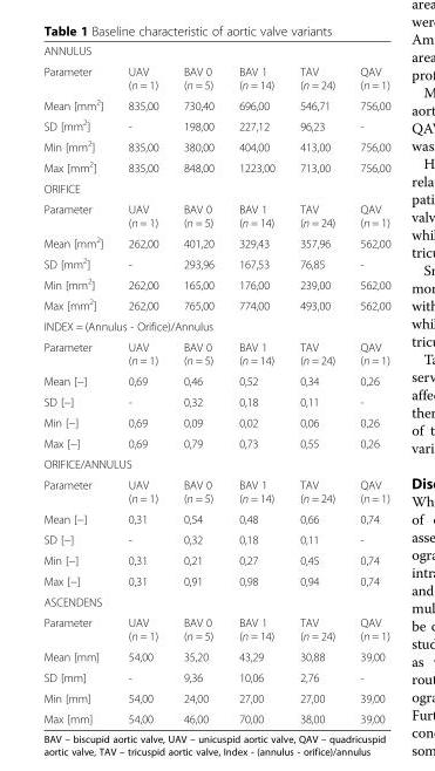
<table><tbody><tr><td colspan="6">ANNULUS</td></tr><tr><td>Parameter</td><td>UAV (n = 1)</td><td>BAV 0 (n = 5)</td><td>BAV 1 (n = 14)</td><td>TAV (n = 24)</td><td>QAV (n = 1)</td></tr><tr><td>Mean [mm<sup>2</sup>]</td><td>835,00</td><td>730,40</td><td>696,00</td><td>546,71</td><td>756,00</td></tr><tr><td>SD [mm<sup>2</sup>]</td><td>-</td><td>198,00</td><td>227,12</td><td>96,23</td><td>-</td></tr><tr><td>Min [mm<sup>2</sup>]</td><td>835,00</td><td>380,00</td><td>404,00</td><td>413,00</td><td>756,00</td></tr><tr><td>Max [mm<sup>2</sup>]</td><td>835,00</td><td>848,00</td><td>1223,00</td><td>713,00</td><td>756,00</td></tr><tr><td colspan="6">ORIFICE</td></tr><tr><td>Parameter</td><td>UAV (n = 1)</td><td>BAV 0 (n = 5)</td><td>BAV 1 (n = 14)</td><td>TAV (n = 24)</td><td>QAV (n = 1)</td></tr><tr><td>Mean [mm<sup>2</sup>]</td><td>262,00</td><td>401,20</td><td>329,43</td><td>357,96</td><td>562,00</td></tr><tr><td>SD [mm<sup>2</sup>]</td><td>-</td><td>293,96</td><td>167,53</td><td>76,85</td><td>-</td></tr><tr><td>Min [mm<sup>2</sup>]</td><td>262,00</td><td>165,00</td><td>176,00</td><td>239,00</td><td>562,00</td></tr><tr><td>Max [mm<sup>2</sup>]</td><td>262,00</td><td>765,00</td><td>774,00</td><td>493,00</td><td>562,00</td></tr><tr><td colspan="6">INDEX = (Annulus - Orifice)/Annulus</td></tr><tr><td>Parameter</td><td>UAV (n = 1)</td><td>BAV 0 (n = 5)</td><td>BAV 1 (n = 14)</td><td>TAV (n = 24)</td><td>QAV (n = 1)</td></tr><tr><td>Mean [−]</td><td>0,69</td><td>0,46</td><td>0,52</td><td>0,34</td><td>0,26</td></tr><tr><td>SD [−]</td><td>-</td><td>0,32</td><td>0,18</td><td>0,11</td><td>-</td></tr><tr><td>Min [−]</td><td>0,69</td><td>0,09</td><td>0,02</td><td>0,06</td><td>0,26</td></tr><tr><td>Max [−]</td><td>0,69</td><td>0,79</td><td>0,73</td><td>0,55</td><td>0,26</td></tr><tr><td colspan="6">ORIFICE/ANNULUS</td></tr><tr><td>Parameter</td><td>UAV (n = 1)</td><td>BAV 0 (n = 5)</td><td>BAV 1 (n = 14)</td><td>TAV (n = 24)</td><td>QAV (n = 1)</td></tr><tr><td>Mean [−]</td><td>0,31</td><td>0,54</td><td>0,48</td><td>0,66</td><td>0,74</td></tr><tr><td>SD [−]</td><td>-</td><td>0,32</td><td>0,18</td><td>0,11</td><td>-</td></tr><tr><td>Min [−]</td><td>0,31</td><td>0,21</td><td>0,27</td><td>0,45</td><td>0,74</td></tr><tr><td>Max [−]</td><td>0,31</td><td>0,91</td><td>0,98</td><td>0,94</td><td>0,74</td></tr><tr><td colspan="6">ASCENDENS</td></tr><tr><td>Parameter</td><td>UAV (n = 1)</td><td>BAV 0 (n = 5)</td><td>BAV 1 (n = 14)</td><td>TAV (n = 24)</td><td>QAV (n = 1)</td></tr><tr><td>Mean [mm]</td><td>54,00</td><td>35,20</td><td>43,29</td><td>30,88</td><td>39,00</td></tr><tr><td>SD [mm]</td><td>-</td><td>9,36</td><td>10,06</td><td>2,76</td><td>-</td></tr><tr><td>Min [mm]</td><td>54,00</td><td>24,00</td><td>27,00</td><td>27,00</td><td>39,00</td></tr><tr><td>Max [mm]</td><td>54,00</td><td>46,00</td><td>70,00</td><td>38,00</td><td>39,00</td></tr></tbody></table>